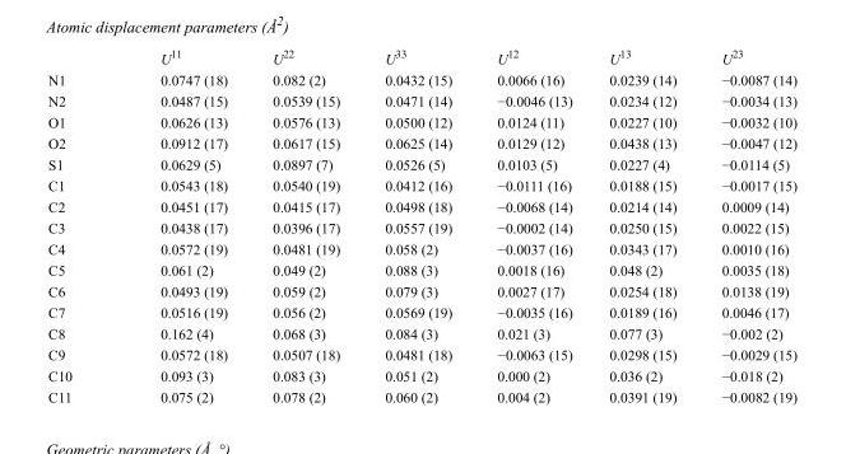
<table><thead><tr><td></td><td>U<sup>11</sup></td><td>U<sup>22</sup></td><td>U<sup>33</sup></td><td>U<sup>12</sup></td><td>U<sup>13</sup></td><td>U<sup>23</sup></td></tr></thead><tbody><tr><td>N1</td><td>0.0747 (18)</td><td>0.082 (2)</td><td>0.0432 (15)</td><td>0.0066 (16)</td><td>0.0239 (14)</td><td>−0.0087 (14)</td></tr><tr><td>N2</td><td>0.0487 (15)</td><td>0.0539 (15)</td><td>0.0471 (14)</td><td>−0.0046 (13)</td><td>0.0234 (12)</td><td>−0.0034 (13)</td></tr><tr><td>O1</td><td>0.0626 (13)</td><td>0.0576 (13)</td><td>0.0500 (12)</td><td>0.0124 (11)</td><td>0.0227 (10)</td><td>−0.0032 (10)</td></tr><tr><td>O2</td><td>0.0912 (17)</td><td>0.0617 (15)</td><td>0.0625 (14)</td><td>0.0129 (12)</td><td>0.0438 (13)</td><td>−0.0047 (12)</td></tr><tr><td>S1</td><td>0.0629 (5)</td><td>0.0897 (7)</td><td>0.0526 (5)</td><td>0.0103 (5)</td><td>0.0227 (4)</td><td>−0.0114 (5)</td></tr><tr><td>C1</td><td>0.0543 (18)</td><td>0.0540 (19)</td><td>0.0412 (16)</td><td>−0.0111 (16)</td><td>0.0188 (15)</td><td>−0.0017 (15)</td></tr><tr><td>C2</td><td>0.0451 (17)</td><td>0.0415 (17)</td><td>0.0498 (18)</td><td>−0.0068 (14)</td><td>0.0214 (14)</td><td>0.0009 (14)</td></tr><tr><td>C3</td><td>0.0438 (17)</td><td>0.0396 (17)</td><td>0.0557 (19)</td><td>−0.0002 (14)</td><td>0.0250 (15)</td><td>0.0022 (15)</td></tr><tr><td>C4</td><td>0.0572 (19)</td><td>0.0481 (19)</td><td>0.058 (2)</td><td>−0.0037 (16)</td><td>0.0343 (17)</td><td>0.0010 (16)</td></tr><tr><td>C5</td><td>0.061 (2)</td><td>0.049 (2)</td><td>0.088 (3)</td><td>0.0018 (16)</td><td>0.048 (2)</td><td>0.0035 (18)</td></tr><tr><td>C6</td><td>0.0493 (19)</td><td>0.059 (2)</td><td>0.079 (3)</td><td>0.0027 (17)</td><td>0.0254 (18)</td><td>0.0138 (19)</td></tr><tr><td>C7</td><td>0.0516 (19)</td><td>0.056 (2)</td><td>0.0569 (19)</td><td>−0.0035 (16)</td><td>0.0189 (16)</td><td>0.0046 (17)</td></tr><tr><td>C8</td><td>0.162 (4)</td><td>0.068 (3)</td><td>0.084 (3)</td><td>0.021 (3)</td><td>0.077 (3)</td><td>−0.002 (2)</td></tr><tr><td>C9</td><td>0.0572 (18)</td><td>0.0507 (18)</td><td>0.0481 (18)</td><td>−0.0063 (15)</td><td>0.0298 (15)</td><td>−0.0029 (15)</td></tr><tr><td>C10</td><td>0.093 (3)</td><td>0.083 (3)</td><td>0.051 (2)</td><td>0.000 (2)</td><td>0.036 (2)</td><td>−0.018 (2)</td></tr><tr><td>C11</td><td>0.075 (2)</td><td>0.078 (2)</td><td>0.060 (2)</td><td>0.004 (2)</td><td>0.0391 (19)</td><td>−0.0082 (19)</td></tr></tbody></table>